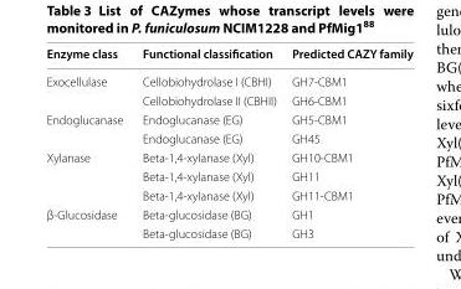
<table><thead><tr><td>Enzyme class</td><td>Functional classification</td><td>Predicted CAZY family</td></tr></thead><tbody><tr><td rowspan="2">Exocellulase</td><td>Cellobiohydrolase I (CBHI)</td><td>GH7-CBM1</td></tr><tr><td>Cellobiohydrolase II (CBHII)</td><td>GH6-CBM1</td></tr><tr><td rowspan="2">Endoglucanase</td><td>Endoglucanase (EG)</td><td>GH5-CBM1</td></tr><tr><td>Endoglucanase (EG)</td><td>GH45</td></tr><tr><td rowspan="3">Xylanase</td><td>Beta-1,4-xylanase (Xyl)</td><td>GH10-CBM1</td></tr><tr><td>Beta-1,4-xylanase (Xyl)</td><td>GH11</td></tr><tr><td>Beta-1,4-xylanase (Xyl)</td><td>GH11-CBM1</td></tr><tr><td rowspan="2">β-Glucosidase</td><td>Beta-glucosidase (BG)</td><td>GH1</td></tr><tr><td>Beta-glucosidase (BG)</td><td>GH3</td></tr></tbody></table>